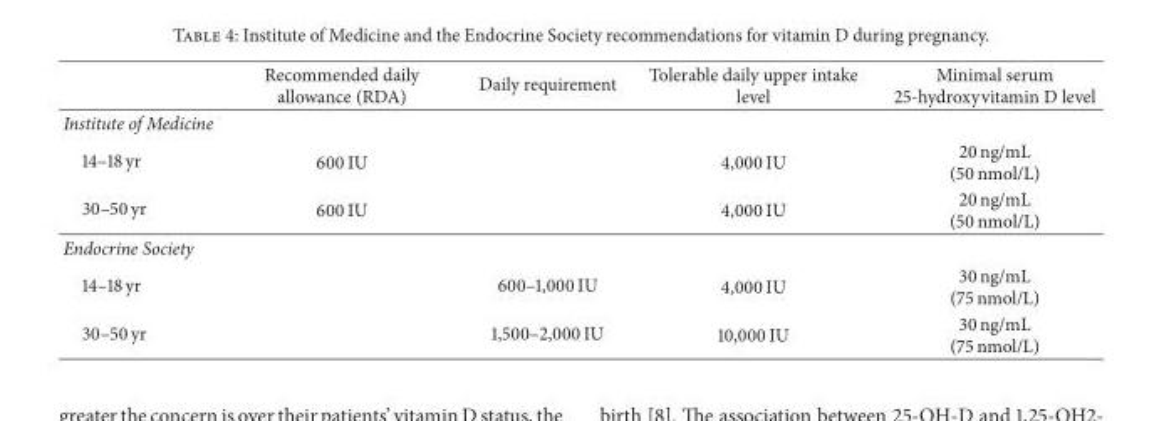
<table><thead><tr><td></td><td>Recommended daily allowance (RDA)</td><td>Daily requirement</td><td>Tolerable daily upper intake level</td><td>Minimal serum 25-hydroxyvitamin D level</td></tr></thead><tbody><tr><td colspan="5">Institute of Medicine</td></tr><tr><td>14–18 yr</td><td>600 IU</td><td></td><td>4,000 IU</td><td>20 ng/mL (50 nmol/L)</td></tr><tr><td>30–50 yr</td><td>600 IU</td><td></td><td>4,000 IU</td><td>20 ng/mL (50 nmol/L)</td></tr><tr><td colspan="5">Endocrine Society</td></tr><tr><td>14–18 yr</td><td></td><td>600–1,000 IU</td><td>4,000 IU</td><td>30 ng/mL (75 nmol/L)</td></tr><tr><td>30–50 yr</td><td></td><td>1,500–2,000 IU</td><td>10,000 IU</td><td>30 ng/mL (75 nmol/L)</td></tr></tbody></table>